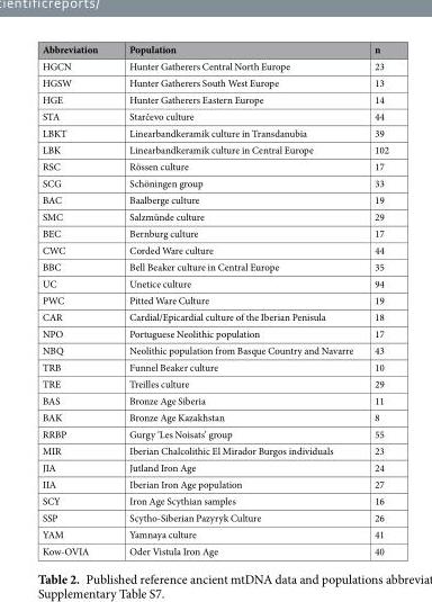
<table><thead><tr><td>Abbreviation</td><td>Population</td><td>n</td></tr></thead><tbody><tr><td>HGCN</td><td>Hunter Gatherers Central North Europe</td><td>23</td></tr><tr><td>HGSW</td><td>Hunter Gatherers South West Europe</td><td>13</td></tr><tr><td>HGE</td><td>Hunter Gatherers Eastern Europe</td><td>14</td></tr><tr><td>STA</td><td>Starčevo culture</td><td>44</td></tr><tr><td>LBKT</td><td>Linearbandkeramik culture in Transdanubia</td><td>39</td></tr><tr><td>LBK</td><td>Linearbandkeramik culture in Central Europe</td><td>102</td></tr><tr><td>RSC</td><td>Rössen culture</td><td>17</td></tr><tr><td>SCG</td><td>Schöningen group</td><td>33</td></tr><tr><td>BAC</td><td>Baalberge culture</td><td>19</td></tr><tr><td>SMC</td><td>Salzmünde culture</td><td>29</td></tr><tr><td>BEC</td><td>Bernburg culture</td><td>17</td></tr><tr><td>CWC</td><td>Corded Ware culture</td><td>44</td></tr><tr><td>BBC</td><td>Bell Beaker culture in Central Europe</td><td>35</td></tr><tr><td>UC</td><td>Unetice culture</td><td>94</td></tr><tr><td>PWC</td><td>Pitted Ware Culture</td><td>19</td></tr><tr><td>CAR</td><td>Cardial/Epicardial culture of the Iberian Penisula</td><td>18</td></tr><tr><td>NPO</td><td>Portuguese Neolithic population</td><td>17</td></tr><tr><td>NBQ</td><td>Neolithic population from Basque Country and Navarre</td><td>43</td></tr><tr><td>TRB</td><td>Funnel Beaker culture</td><td>10</td></tr><tr><td>TRE</td><td>Treilles culture</td><td>29</td></tr><tr><td>BAS</td><td>Bronze Age Siberia</td><td>11</td></tr><tr><td>BAK</td><td>Bronze Age Kazakhstan</td><td>8</td></tr><tr><td>RRBP</td><td>Gurgy ‘Les Noisats’ group</td><td>55</td></tr><tr><td>MIR</td><td>Iberian Chalcolithic El Mirador Burgos individuals</td><td>23</td></tr><tr><td>JIA</td><td>Jutland Iron Age</td><td>24</td></tr><tr><td>IIA</td><td>Iberian Iron Age population</td><td>27</td></tr><tr><td>SCY</td><td>Iron Age Scythian samples</td><td>16</td></tr><tr><td>SSP</td><td>Scytho-Siberian Pazyryk Culture</td><td>26</td></tr><tr><td>YAM</td><td>Yamnaya culture</td><td>41</td></tr><tr><td>Kow-OVIA</td><td>Oder Vistula Iron Age</td><td>40</td></tr></tbody></table>